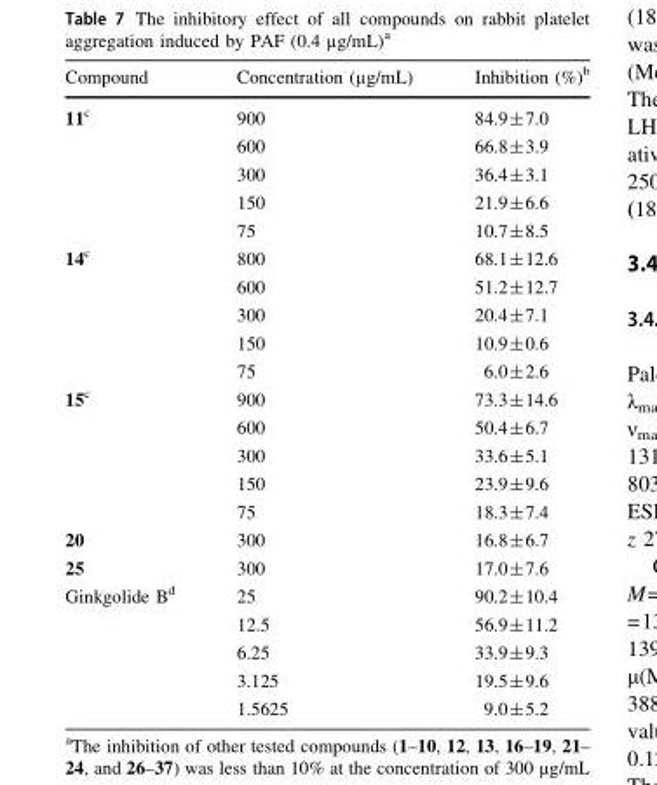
<table><thead><tr><td>Compound</td><td>Concentration (µg/mL)</td><td>Inhibition (%)<sup>b</sup></td></tr></thead><tbody><tr><td rowspan="5">11<sup>c</sup></td><td>900</td><td>84.9±7.0</td></tr><tr><td>600</td><td>66.8±3.9</td></tr><tr><td>300</td><td>36.4±3.1</td></tr><tr><td>150</td><td>21.9±6.6</td></tr><tr><td>75</td><td>10.7±8.5</td></tr><tr><td rowspan="5">14<sup>c</sup></td><td>800</td><td>68.1±12.6</td></tr><tr><td>600</td><td>51.2±12.7</td></tr><tr><td>300</td><td>20.4±7.1</td></tr><tr><td>150</td><td>10.9±0.6</td></tr><tr><td>75</td><td>6.0±2.6</td></tr><tr><td rowspan="5">15<sup>c</sup></td><td>900</td><td>73.3±14.6</td></tr><tr><td>600</td><td>50.4±6.7</td></tr><tr><td>300</td><td>33.6±5.1</td></tr><tr><td>150</td><td>23.9±9.6</td></tr><tr><td>75</td><td>18.3±7.4</td></tr><tr><td>20</td><td>300</td><td>16.8±6.7</td></tr><tr><td>25</td><td>300</td><td>17.0±7.6</td></tr><tr><td rowspan="5">Ginkgolide B<sup>d</sup></td><td>25</td><td>90.2±10.4</td></tr><tr><td>12.5</td><td>56.9±11.2</td></tr><tr><td>6.25</td><td>33.9±9.3</td></tr><tr><td>3.125</td><td>19.5±9.6</td></tr><tr><td>1.5625</td><td>9.0±5.2</td></tr></tbody></table>